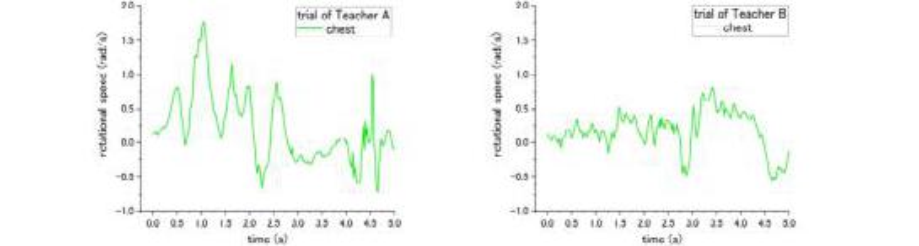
<table><thead><tr><td rowspan="2">Step</td><td rowspan="2">Influence on Step</td><td rowspan="2">Value (Unit)</td><td colspan="2">Correct Way</td><td colspan="2">Incorrect Way</td></tr><tr><td>Teacher A</td><td>Teacher B</td><td>Teacher A</td><td>Teacher B</td></tr></thead><tbody><tr><td>No. 1</td><td>No. 12</td><td>* Total angle variation (°)</td><td>100.4</td><td>96.1</td><td>144.1</td><td>146.6</td></tr><tr><td>No. 5</td><td>No. 5</td><td>* Total angle variation (°)</td><td>105.2</td><td>108.6</td><td>No. 5-(1) 56.1</td><td>No. 5-(1) 52.8</td></tr><tr><td>No. 7</td><td>No. 12</td><td><sup>┬</sup> MAX-to-MIN (rad/s)</td><td>2.47</td><td>1.36</td><td>2.38</td><td>1.57</td></tr><tr><td>No. 9</td><td>No. 12</td><td>MAX-to-MIN (rad/s)</td><td>2.47</td><td>1.36</td><td>3.40</td><td>2.60</td></tr></tbody></table>